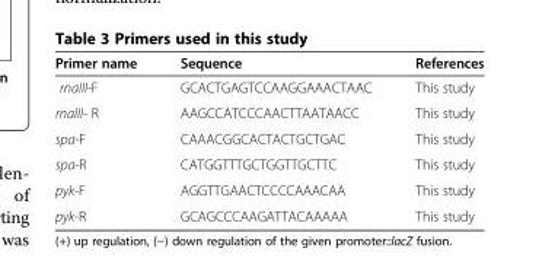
<table><thead><tr><td>Primer name</td><td>Sequence</td><td>References</td></tr></thead><tbody><tr><td>rnaIII-F</td><td>GCACTGAGTCCAAGGAAACTAAC</td><td>This study</td></tr><tr><td>rnaIII- R</td><td>AAGCCATCCCAACTTAATAACC</td><td>This study</td></tr><tr><td>spa-F</td><td>CAAACGGCACTACTGCTGAC</td><td>This study</td></tr><tr><td>spa-R</td><td>CATGGTTTGCTGGTTGCTTC</td><td>This study</td></tr><tr><td>pyk-F</td><td>AGGTTGAACTCCCCAAACAA</td><td>This study</td></tr><tr><td>pyk-R</td><td>GCAGCCCAAGATTACAAAAA</td><td>This study</td></tr></tbody></table>